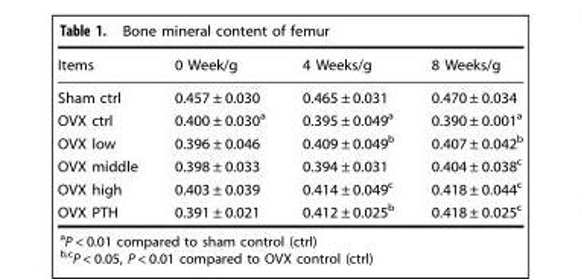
<table><thead><tr><td>Items</td><td>0 Week/g</td><td>4 Weeks/g</td><td>8 Weeks/g</td></tr></thead><tbody><tr><td>Sham ctrl</td><td>0.457 ± 0.030</td><td>0.465 ± 0.031</td><td>0.470 ± 0.034</td></tr><tr><td>OVX ctrl</td><td>0.400 ± 0.030<sup>a</sup></td><td>0.395 ± 0.049<sup>a</sup></td><td>0.390 ± 0.001<sup>a</sup></td></tr><tr><td>OVX low</td><td>0.396 ± 0.046</td><td>0.409 ± 0.049<sup>b</sup></td><td>0.407 ± 0.042<sup>b</sup></td></tr><tr><td>OVX middle</td><td>0.398 ± 0.033</td><td>0.394 ± 0.031</td><td>0.404 ± 0.038<sup>c</sup></td></tr><tr><td>OVX high</td><td>0.403 ± 0.039</td><td>0.414 ± 0.049<sup>c</sup></td><td>0.418 ± 0.044<sup>c</sup></td></tr><tr><td>OVX PTH</td><td>0.391 ± 0.021</td><td>0.412 ± 0.025<sup>b</sup></td><td>0.418 ± 0.025<sup>c</sup></td></tr></tbody></table>